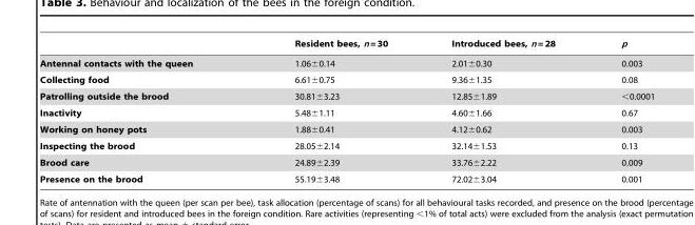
<table><thead><tr><td></td><td>Resident bees, n = 30</td><td>Introduced bees, n = 28</td><td>p</td></tr></thead><tbody><tr><td>Antennal contacts with the queen</td><td>1.06±0.14</td><td>2.01±0.30</td><td>0.003</td></tr><tr><td>Collecting food</td><td>6.61±0.75</td><td>9.36±1.35</td><td>0.08</td></tr><tr><td>Patrolling outside the brood</td><td>30.81±3.23</td><td>12.85±1.89</td><td>&lt;0.0001</td></tr><tr><td>Inactivity</td><td>5.48±1.11</td><td>4.60±1.66</td><td>0.67</td></tr><tr><td>Working on honey pots</td><td>1.88±0.41</td><td>4.12±0.62</td><td>0.003</td></tr><tr><td>Inspecting the brood</td><td>28.05±2.14</td><td>32.14±1.53</td><td>0.13</td></tr><tr><td>Brood care</td><td>24.89±2.39</td><td>33.76±2.22</td><td>0.009</td></tr><tr><td>Presence on the brood</td><td>55.19±3.48</td><td>72.02±3.04</td><td>0.001</td></tr></tbody></table>